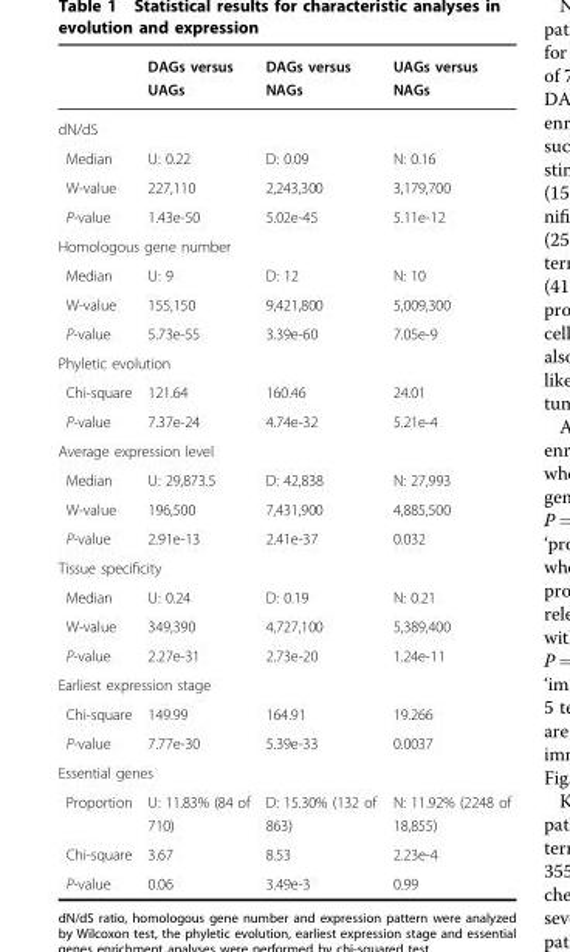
<table><thead><tr><td></td><td>DAGs versus UAGs</td><td>DAGs versus NAGs</td><td>UAGs versus NAGs</td></tr></thead><tbody><tr><td colspan="4">dN/dS</td></tr><tr><td>Median</td><td>U: 0.22</td><td>D: 0.09</td><td>N: 0.16</td></tr><tr><td>W-value</td><td>227,110</td><td>2,243,300</td><td>3,179,700</td></tr><tr><td>P-value</td><td>1.43e-50</td><td>5.02e-45</td><td>5.11e-12</td></tr><tr><td colspan="4">Homologous gene number</td></tr><tr><td>Median</td><td>U: 9</td><td>D: 12</td><td>N: 10</td></tr><tr><td>W-value</td><td>155,150</td><td>9,421,800</td><td>5,009,300</td></tr><tr><td>P-value</td><td>5.73e-55</td><td>3.39e-60</td><td>7.05e-9</td></tr><tr><td colspan="4">Phyletic evolution</td></tr><tr><td>Chi-square</td><td>121.64</td><td>160.46</td><td>24.01</td></tr><tr><td>P-value</td><td>7.37e-24</td><td>4.74e-32</td><td>5.21e-4</td></tr><tr><td colspan="4">Average expression level</td></tr><tr><td>Median</td><td>U: 29,873.5</td><td>D: 42,838</td><td>N: 27,993</td></tr><tr><td>W-value</td><td>196,500</td><td>7,431,900</td><td>4,885,500</td></tr><tr><td>P-value</td><td>2.91e-13</td><td>2.41e-37</td><td>0.032</td></tr><tr><td colspan="4">Tissue specificity</td></tr><tr><td>Median</td><td>U: 0.24</td><td>D: 0.19</td><td>N: 0.21</td></tr><tr><td>W-value</td><td>349,390</td><td>4,727,100</td><td>5,389,400</td></tr><tr><td>P-value</td><td>2.27e-31</td><td>2.73e-20</td><td>1.24e-11</td></tr><tr><td colspan="4">Earliest expression stage</td></tr><tr><td>Chi-square</td><td>149.99</td><td>164.91</td><td>19.266</td></tr><tr><td>P-value</td><td>7.77e-30</td><td>5.39e-33</td><td>0.0037</td></tr><tr><td colspan="4">Essential genes</td></tr><tr><td>Proportion</td><td>U: 11.83% (84 of 710)</td><td>D: 15.30% (132 of 863)</td><td>N: 11.92% (2248 of 18,855)</td></tr><tr><td>Chi-square</td><td>3.67</td><td>8.53</td><td>2.23e-4</td></tr><tr><td>P-value</td><td>0.06</td><td>3.49e-3</td><td>0.99</td></tr></tbody></table>